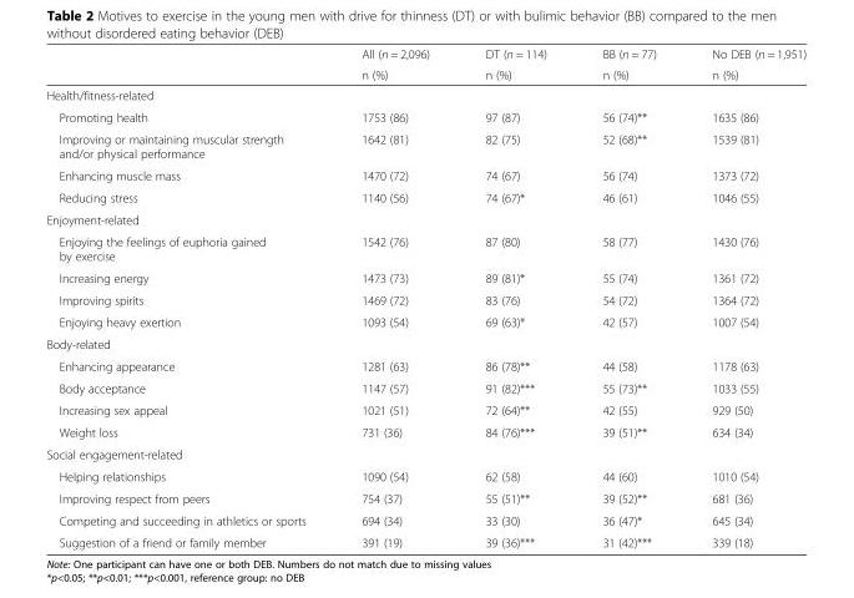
<table><thead><tr><td rowspan="2"></td><td rowspan="2">All (n = 2,096) n (%)</td><td rowspan="2">DT (n = 114) n (%)</td><td rowspan="2">BB (n = 77) n (%)</td><td rowspan="2">No DEB (n = 1,951) n (%)</td></tr><tr></tr></thead><tbody><tr><td colspan="5">Health/fitness-related</td></tr><tr><td>Promoting health</td><td>1753 (86)</td><td>97 (87)</td><td>56 (74)**</td><td>1635 (86)</td></tr><tr><td>Improving or maintaining muscular strength and/or physical performance</td><td>1642 (81)</td><td>82 (75)</td><td>52 (68)**</td><td>1539 (81)</td></tr><tr><td>Enhancing muscle mass</td><td>1470 (72)</td><td>74 (67)</td><td>56 (74)</td><td>1373 (72)</td></tr><tr><td>Reducing stress</td><td>1140 (56)</td><td>74 (67)*</td><td>46 (61)</td><td>1046 (55)</td></tr><tr><td colspan="5">Enjoyment-related</td></tr><tr><td>Enjoying the feelings of euphoria gained by exercise</td><td>1542 (76)</td><td>87 (80)</td><td>58 (77)</td><td>1430 (76)</td></tr><tr><td>Increasing energy</td><td>1473 (73)</td><td>89 (81)*</td><td>55 (74)</td><td>1361 (72)</td></tr><tr><td>Improving spirits</td><td>1469 (72)</td><td>83 (76)</td><td>54 (72)</td><td>1364 (72)</td></tr><tr><td>Enjoying heavy exertion</td><td>1093 (54)</td><td>69 (63)*</td><td>42 (57)</td><td>1007 (54)</td></tr><tr><td colspan="5">Body-related</td></tr><tr><td>Enhancing appearance</td><td>1281 (63)</td><td>86 (78)**</td><td>44 (58)</td><td>1178 (63)</td></tr><tr><td>Body acceptance</td><td>1147 (57)</td><td>91 (82)***</td><td>55 (73)**</td><td>1033 (55)</td></tr><tr><td>Increasing sex appeal</td><td>1021 (51)</td><td>72 (64)**</td><td>42 (55)</td><td>929 (50)</td></tr><tr><td>Weight loss</td><td>731 (36)</td><td>84 (76)***</td><td>39 (51)**</td><td>634 (34)</td></tr><tr><td colspan="5">Social engagement-related</td></tr><tr><td>Helping relationships</td><td>1090 (54)</td><td>62 (58)</td><td>44 (60)</td><td>1010 (54)</td></tr><tr><td>Improving respect from peers</td><td>754 (37)</td><td>55 (51)**</td><td>39 (52)**</td><td>681 (36)</td></tr><tr><td>Competing and succeeding in athletics or sports</td><td>694 (34)</td><td>33 (30)</td><td>36 (47)*</td><td>645 (34)</td></tr><tr><td>Suggestion of a friend or family member</td><td>391 (19)</td><td>39 (36)***</td><td>31 (42)***</td><td>339 (18)</td></tr></tbody></table>